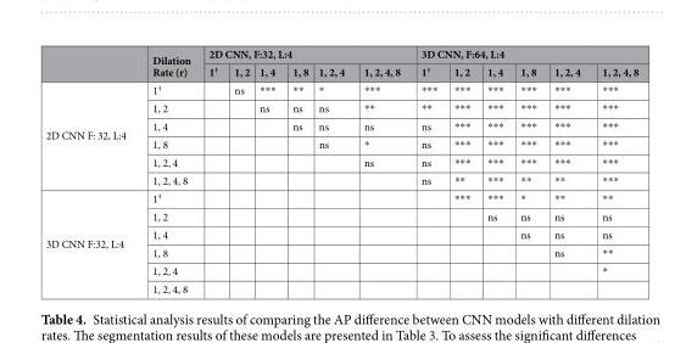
<table><thead><tr><td rowspan="2"></td><td rowspan="2">Dilation Rate (r)</td><td colspan="6">2D CNN, F:32, L:4</td><td colspan="6">3D CNN, F:64, L:4</td></tr><tr><td>1<sup>†</sup></td><td>1, 2</td><td>1, 4</td><td>1, 8</td><td>1, 2, 4</td><td>1, 2, 4, 8</td><td>1<sup>†</sup></td><td>1, 2</td><td>1, 4</td><td>1, 8</td><td>1, 2, 4</td><td>1, 2, 4, 8</td></tr></thead><tbody><tr><td rowspan="6">2D CNN F: 32, L:4</td><td>1<sup>†</sup></td><td></td><td>ns</td><td>***</td><td>**</td><td>*</td><td>***</td><td>***</td><td>***</td><td>***</td><td>***</td><td>***</td><td>***</td></tr><tr><td>1, 2</td><td></td><td></td><td>ns</td><td>ns</td><td>ns</td><td>**</td><td>**</td><td>***</td><td>***</td><td>***</td><td>***</td><td>***</td></tr><tr><td>1, 4</td><td></td><td></td><td></td><td>ns</td><td>ns</td><td>ns</td><td>ns</td><td>***</td><td>***</td><td>***</td><td>***</td><td>***</td></tr><tr><td>1, 8</td><td></td><td></td><td></td><td></td><td>ns</td><td>*</td><td>ns</td><td>***</td><td>***</td><td>***</td><td>***</td><td>***</td></tr><tr><td>1, 2, 4</td><td></td><td></td><td></td><td></td><td></td><td>ns</td><td>ns</td><td>***</td><td>***</td><td>***</td><td>***</td><td>***</td></tr><tr><td>1, 2, 4, 8</td><td></td><td></td><td></td><td></td><td></td><td></td><td>ns</td><td>**</td><td>***</td><td>**</td><td>**</td><td>***</td></tr><tr><td rowspan="6">3D CNN F:32, L:4</td><td>1<sup>†</sup></td><td></td><td></td><td></td><td></td><td></td><td></td><td></td><td>***</td><td>***</td><td>*</td><td>**</td><td>**</td></tr><tr><td>1, 2</td><td></td><td></td><td></td><td></td><td></td><td></td><td></td><td></td><td>ns</td><td>ns</td><td>ns</td><td>ns</td></tr><tr><td>1, 4</td><td></td><td></td><td></td><td></td><td></td><td></td><td></td><td></td><td></td><td>ns</td><td>ns</td><td>ns</td></tr><tr><td>1, 8</td><td></td><td></td><td></td><td></td><td></td><td></td><td></td><td></td><td></td><td></td><td>ns</td><td>**</td></tr><tr><td>1, 2, 4</td><td></td><td></td><td></td><td></td><td></td><td></td><td></td><td></td><td></td><td></td><td></td><td>*</td></tr><tr><td>1, 2, 4, 8</td><td></td><td></td><td></td><td></td><td></td><td></td><td></td><td></td><td></td><td></td><td></td><td></td></tr></tbody></table>